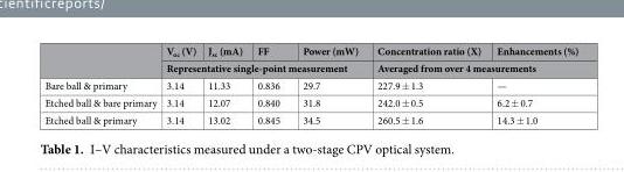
<table><thead><tr><td rowspan="2"></td><td>V<sub>oc</sub> (V)</td><td>J<sub>sc</sub> (mA)</td><td>FF</td><td>Power (mW)</td><td>Concentration ratio (X)</td><td>Enhancements (%)</td></tr><tr><td colspan="4">Representative single-point measurement</td><td colspan="2">Averaged from over 4 measurements</td></tr></thead><tbody><tr><td>Bare ball &amp; primary</td><td>3.14</td><td>11.33</td><td>0.836</td><td>29.7</td><td>227.9 ± 1.3</td><td>—</td></tr><tr><td>Etched ball &amp; bare primary</td><td>3.14</td><td>12.07</td><td>0.840</td><td>31.8</td><td>242.0 ± 0.5</td><td>6.2 ± 0.7</td></tr><tr><td>Etched ball &amp; primary</td><td>3.14</td><td>13.02</td><td>0.845</td><td>34.5</td><td>260.5 ± 1.6</td><td>14.3 ± 1.0</td></tr></tbody></table>